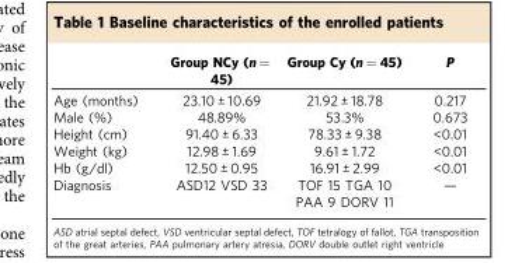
<table><thead><tr><td></td><td>Group NCy (n = 45)</td><td>Group Cy (n = 45)</td><td>P</td></tr></thead><tbody><tr><td>Age (months)</td><td>23.10 ± 10.69</td><td>21.92 ± 18.78</td><td>0.217</td></tr><tr><td>Male (%)</td><td>48.89%</td><td>53.3%</td><td>0.673</td></tr><tr><td>Height (cm)</td><td>91.40 ± 6.33</td><td>78.33 ± 9.38</td><td>&lt;0.01</td></tr><tr><td>Weight (kg)</td><td>12.98 ± 1.69</td><td>9.61 ± 1.72</td><td>&lt;0.01</td></tr><tr><td>Hb (g/dl)</td><td>12.50 ± 0.95</td><td>16.91 ± 2.99</td><td>&lt;0.01</td></tr><tr><td>Diagnosis</td><td>ASD12 VSD 33</td><td>TOF 15 TGA 10 PAA 9 DORV 11</td><td>—</td></tr></tbody></table>